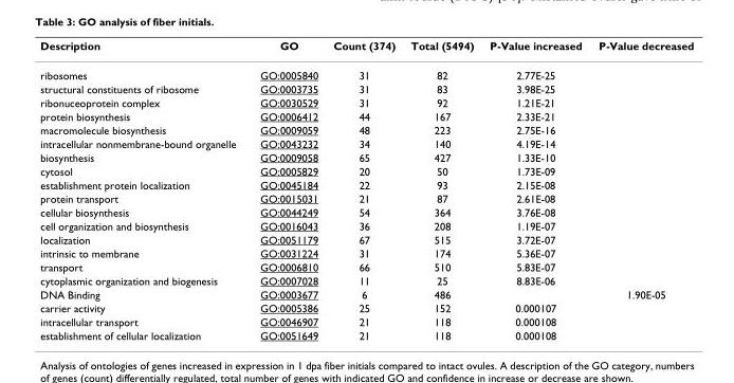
<table><thead><tr><td>Description</td><td>GO</td><td>Count (374)</td><td>Total (5494)</td><td>P-Value increased</td><td>P-Value decreased</td></tr></thead><tbody><tr><td>ribosomes</td><td>GO:0005840</td><td>31</td><td>82</td><td>2.77E-25</td><td></td></tr><tr><td>structural constituents of ribosome</td><td>GO:0003735</td><td>31</td><td>83</td><td>3.98E-25</td><td></td></tr><tr><td>ribonuceoprotein complex</td><td>GO:0030529</td><td>31</td><td>92</td><td>1.21E-21</td><td></td></tr><tr><td>protein biosynthesis</td><td>GO:0006412</td><td>44</td><td>167</td><td>2.33E-21</td><td></td></tr><tr><td>macromolecule biosynthesis</td><td>GO:0009059</td><td>48</td><td>223</td><td>2.75E-16</td><td></td></tr><tr><td>intracellular nonmembrane-bound organelle</td><td>GO:0043232</td><td>34</td><td>140</td><td>4.19E-14</td><td></td></tr><tr><td>biosynthesis</td><td>GO:0009058</td><td>65</td><td>427</td><td>1.33E-10</td><td></td></tr><tr><td>cytosol</td><td>GO:0005829</td><td>20</td><td>50</td><td>1.73E-09</td><td></td></tr><tr><td>establishment protein localization</td><td>GO:0045184</td><td>22</td><td>93</td><td>2.15E-08</td><td></td></tr><tr><td>protein transport</td><td>GO:0015031</td><td>21</td><td>87</td><td>2.61E-08</td><td></td></tr><tr><td>cellular biosynthesis</td><td>GO:0044249</td><td>54</td><td>364</td><td>3.76E-08</td><td></td></tr><tr><td>cell organization and biosynthesis</td><td>GO:0016043</td><td>36</td><td>208</td><td>1.19E-07</td><td></td></tr><tr><td>localization</td><td>GO:0051179</td><td>67</td><td>515</td><td>3.72E-07</td><td></td></tr><tr><td>intrinsic to membrane</td><td>GO:0031224</td><td>31</td><td>174</td><td>5.36E-07</td><td></td></tr><tr><td>transport</td><td>GO:0006810</td><td>66</td><td>510</td><td>5.83E-07</td><td></td></tr><tr><td>cytoplasmic organization and biogenesis</td><td>GO:0007028</td><td>11</td><td>25</td><td>8.83E-06</td><td></td></tr><tr><td>DNA Binding</td><td>GO:0003677</td><td>6</td><td>486</td><td></td><td>1.90E-05</td></tr><tr><td>carrier activity</td><td>GO:0005386</td><td>25</td><td>152</td><td>0.000107</td><td></td></tr><tr><td>intracellular transport</td><td>GO:0046907</td><td>21</td><td>118</td><td>0.000108</td><td></td></tr><tr><td>establishment of cellular localization</td><td>GO:0051649</td><td>21</td><td>118</td><td>0.000108</td><td></td></tr></tbody></table>